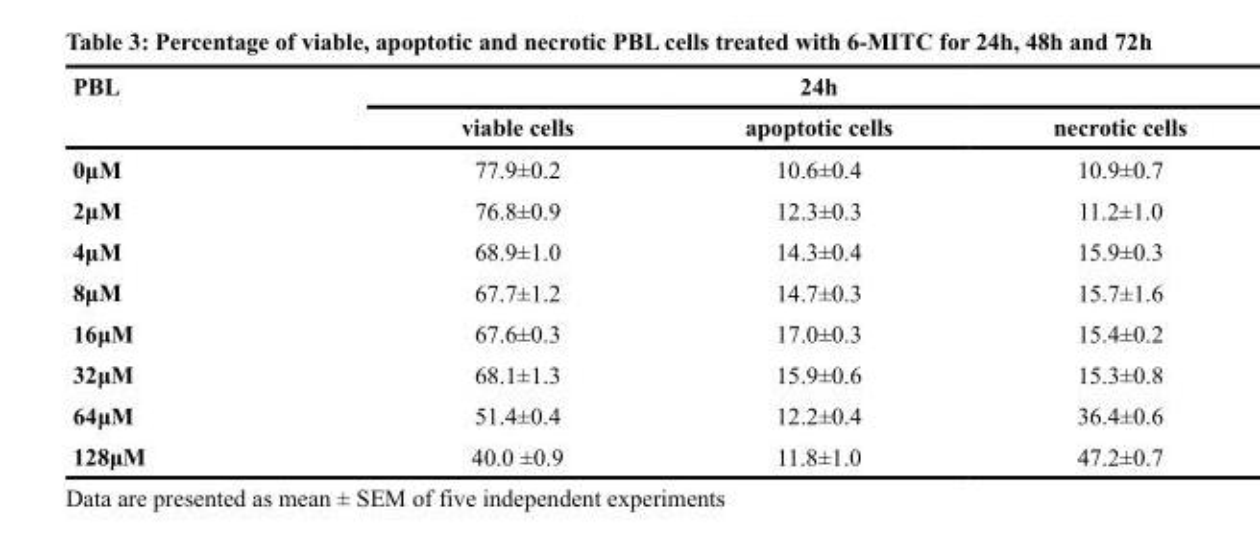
<table><thead><tr><td rowspan="2">PBL</td><td rowspan="2">viable cells</td><td rowspan="2">24h apoptotic cells</td><td rowspan="2">necrotic cells</td></tr><tr></tr></thead><tbody><tr><td>0μM</td><td>77.9±0.2</td><td>10.6±0.4</td><td>10.9±0.7</td></tr><tr><td>2μM</td><td>76.8±0.9</td><td>12.3±0.3</td><td>11.2±1.0</td></tr><tr><td>4μM</td><td>68.9±1.0</td><td>14.3±0.4</td><td>15.9±0.3</td></tr><tr><td>8μM</td><td>67.7±1.2</td><td>14.7±0.3</td><td>15.7±1.6</td></tr><tr><td>16μM</td><td>67.6±0.3</td><td>17.0±0.3</td><td>15.4±0.2</td></tr><tr><td>32μM</td><td>68.1±1.3</td><td>15.9±0.6</td><td>15.3±0.8</td></tr><tr><td>64μM</td><td>51.4±0.4</td><td>12.2±0.4</td><td>36.4±0.6</td></tr><tr><td>128μM</td><td>40.0 ±0.9</td><td>11.8±1.0</td><td>47.2±0.7</td></tr></tbody></table>